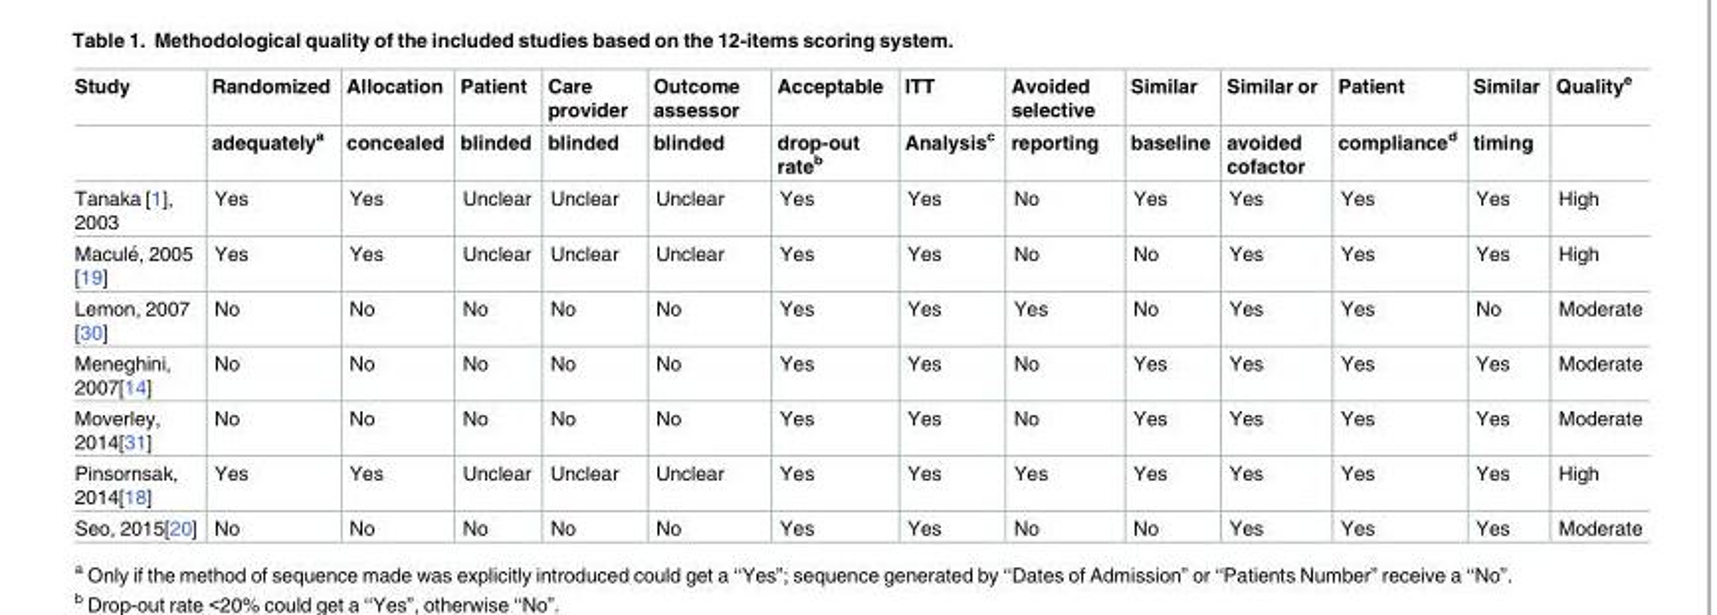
<table><thead><tr><td rowspan="2">Study</td><td rowspan="2">Randomized adequately<sup>a</sup></td><td rowspan="2">Allocation concealed</td><td rowspan="2">Patient blinded</td><td rowspan="2">Care provider blinded</td><td rowspan="2">Outcome assessor blinded</td><td rowspan="2">Acceptable drop-out rate<sup>b</sup></td><td rowspan="2">ITT Analysis<sup>c</sup></td><td rowspan="2">Avoided selective reporting</td><td rowspan="2">Similar baseline</td><td rowspan="2">Similar or avoided cofactor</td><td rowspan="2">Patient compliance<sup>d</sup></td><td rowspan="2">Similar timing</td><td rowspan="2">Quality<sup>e</sup></td></tr><tr></tr></thead><tbody><tr><td>Tanaka [1], 2003</td><td>Yes</td><td>Yes</td><td>Unclear</td><td>Unclear</td><td>Unclear</td><td>Yes</td><td>Yes</td><td>No</td><td>Yes</td><td>Yes</td><td>Yes</td><td>Yes</td><td>High</td></tr><tr><td>Macule´, 2005 [19]</td><td>Yes</td><td>Yes</td><td>Unclear</td><td>Unclear</td><td>Unclear</td><td>Yes</td><td>Yes</td><td>No</td><td>No</td><td>Yes</td><td>Yes</td><td>Yes</td><td>High</td></tr><tr><td>Lemon, 2007 [30]</td><td>No</td><td>No</td><td>No</td><td>No</td><td>No</td><td>Yes</td><td>Yes</td><td>Yes</td><td>No</td><td>Yes</td><td>Yes</td><td>No</td><td>Moderate</td></tr><tr><td>Meneghini, 2007[14]</td><td>No</td><td>No</td><td>No</td><td>No</td><td>No</td><td>Yes</td><td>Yes</td><td>No</td><td>Yes</td><td>Yes</td><td>Yes</td><td>Yes</td><td>Moderate</td></tr><tr><td>Moverley, 2014[31]</td><td>No</td><td>No</td><td>No</td><td>No</td><td>No</td><td>Yes</td><td>Yes</td><td>No</td><td>Yes</td><td>Yes</td><td>Yes</td><td>Yes</td><td>Moderate</td></tr><tr><td>Pinsornsak, 2014[18]</td><td>Yes</td><td>Yes</td><td>Unclear</td><td>Unclear</td><td>Unclear</td><td>Yes</td><td>Yes</td><td>Yes</td><td>Yes</td><td>Yes</td><td>Yes</td><td>Yes</td><td>High</td></tr><tr><td>Seo, 2015[20]</td><td>No</td><td>No</td><td>No</td><td>No</td><td>No</td><td>Yes</td><td>Yes</td><td>No</td><td>No</td><td>Yes</td><td>Yes</td><td>Yes</td><td>Moderate</td></tr></tbody></table>